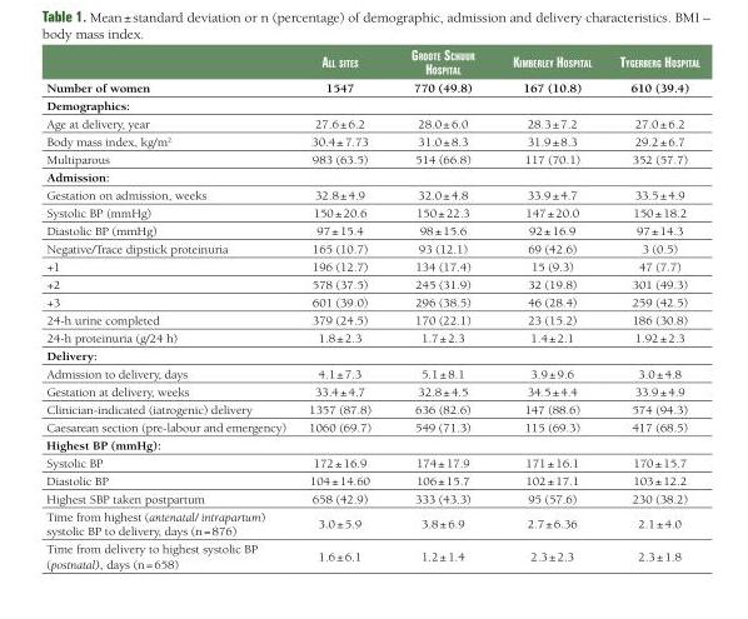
<table><thead><tr><td></td><td>All sites</td><td>Groote schuur hospitAl</td><td>Kimberley hospitAl</td><td>tyGerberG hospitAl</td></tr></thead><tbody><tr><td>Number of women</td><td>1547</td><td>770 (49.8)</td><td>167 (10.8)</td><td>610 (39.4)</td></tr><tr><td colspan="5">Demographics:</td></tr><tr><td>Age at delivery, year</td><td>27.6 ± 6.2</td><td>28.0 ± 6.0</td><td>28.3 ± 7.2</td><td>27.0 ± 6.2</td></tr><tr><td>Body mass index, kg/m<sup>2</sup></td><td>30.4 ± 7.73</td><td>31.0 ± 8.3</td><td>31.9 ± 8.3</td><td>29.2 ± 6.7</td></tr><tr><td>Multiparous</td><td>983 (63.5)</td><td>514 (66.8)</td><td>117 (70.1)</td><td>352 (57.7)</td></tr><tr><td colspan="5">Admission:</td></tr><tr><td>Gestation on admission, weeks</td><td>32.8 ± 4.9</td><td>32.0 ± 4.8</td><td>33.9 ± 4.7</td><td>33.5 ± 4.9</td></tr><tr><td>Systolic BP (mmHg)</td><td>150 ± 20.6</td><td>150 ± 22.3</td><td>147 ± 20.0</td><td>150 ± 18.2</td></tr><tr><td>Diastolic BP (mmHg)</td><td>97 ± 15.4</td><td>98 ± 15.6</td><td>92 ± 16.9</td><td>97 ± 14.3</td></tr><tr><td>Negative/Trace dipstick proteinuria</td><td>165 (10.7)</td><td>93 (12.1)</td><td>69 (42.6)</td><td>3 (0.5)</td></tr><tr><td>+1</td><td>196 (12.7)</td><td>134 (17.4)</td><td>15 (9.3)</td><td>47 (7.7)</td></tr><tr><td>+2</td><td>578 (37.5)</td><td>245 (31.9)</td><td>32 (19.8)</td><td>301 (49.3)</td></tr><tr><td>+3</td><td>601 (39.0)</td><td>296 (38.5)</td><td>46 (28.4)</td><td>259 (42.5)</td></tr><tr><td>24-h urine completed</td><td>379 (24.5)</td><td>170 (22.1)</td><td>23 (15.2)</td><td>186 (30.8)</td></tr><tr><td>24-h proteinuria (g/24 h)</td><td>1.8 ± 2.3</td><td>1.7 ± 2.3</td><td>1.4 ± 2.1</td><td>1.92 ± 2.3</td></tr><tr><td colspan="5">Delivery:</td></tr><tr><td>Admission to delivery, days</td><td>4.1 ± 7.3</td><td>5.1 ± 8.1</td><td>3.9 ± 9.6</td><td>3.0 ± 4.8</td></tr><tr><td>Gestation at delivery, weeks</td><td>33.4 ± 4.7</td><td>32.8 ± 4.5</td><td>34.5 ± 4.4</td><td>33.9 ± 4.9</td></tr><tr><td>Clinician-indicated (iatrogenic) delivery</td><td>1357 (87.8)</td><td>636 (82.6)</td><td>147 (88.6)</td><td>574 (94.3)</td></tr><tr><td>Caesarean section (pre-labour and emergency)</td><td>1060 (69.7)</td><td>549 (71.3)</td><td>115 (69.3)</td><td>417 (68.5)</td></tr><tr><td colspan="5">Highest BP (mmHg):</td></tr><tr><td>Systolic BP</td><td>172 ± 16.9</td><td>174 ± 17.9</td><td>171 ± 16.1</td><td>170 ± 15.7</td></tr><tr><td>Diastolic BP</td><td>104 ± 14.60</td><td>106 ± 15.7</td><td>102 ± 17.1</td><td>103 ± 12.2</td></tr><tr><td>Highest SBP taken postpartum</td><td>658 (42.9)</td><td>333 (43.3)</td><td>95 (57.6)</td><td>230 (38.2)</td></tr><tr><td>Time from highest (antenatal/ intrapartum) systolic BP to delivery, days (n = 876)</td><td>3.0 ± 5.9</td><td>3.8 ± 6.9</td><td>2.7 ± 6.36</td><td>2.1 ± 4.0</td></tr><tr><td>Time from delivery to highest systolic BP (postnatal), days (n = 658)</td><td>1.6 ± 6.1</td><td>1.2 ± 1.4</td><td>2.3 ± 2.3</td><td>2.3 ± 1.8</td></tr></tbody></table>